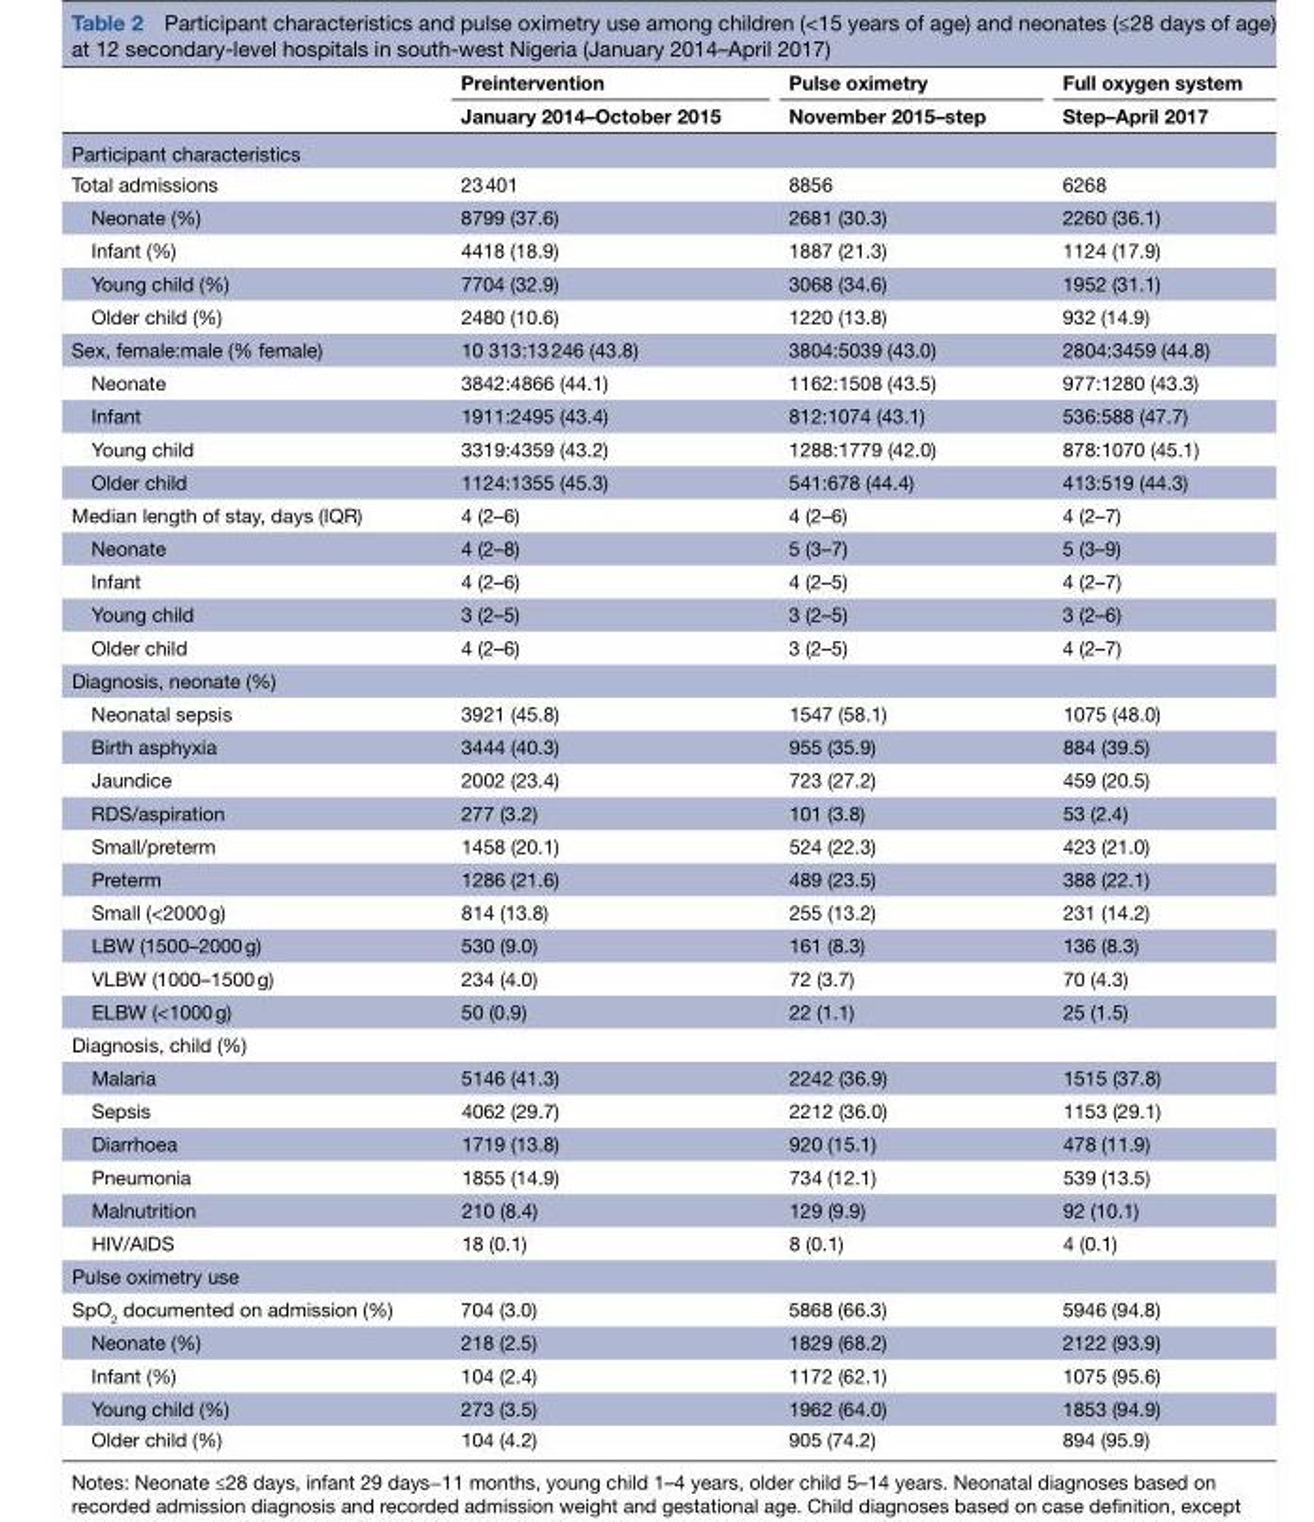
<table><thead><tr><td rowspan="2"></td><td rowspan="2">Preintervention January 2014–October 2015</td><td rowspan="2">Pulse oximetry November 2015–step</td><td rowspan="2">Full oxygen system Step–April 2017</td></tr><tr></tr></thead><tbody><tr><td colspan="4">Participant characteristics</td></tr><tr><td>Total admissions</td><td>23 401</td><td>8856</td><td>6268</td></tr><tr><td>Neonate (%)</td><td>8799 (37.6)</td><td>2681 (30.3)</td><td>2260 (36.1)</td></tr><tr><td>Infant (%)</td><td>4418 (18.9)</td><td>1887 (21.3)</td><td>1124 (17.9)</td></tr><tr><td>Young child (%)</td><td>7704 (32.9)</td><td>3068 (34.6)</td><td>1952 (31.1)</td></tr><tr><td>Older child (%)</td><td>2480 (10.6)</td><td>1220 (13.8)</td><td>932 (14.9)</td></tr><tr><td>Sex, female:male (% female)</td><td>10 313:13 246 (43.8)</td><td>3804:5039 (43.0)</td><td>2804:3459 (44.8)</td></tr><tr><td>Neonate</td><td>3842:4866 (44.1)</td><td>1162:1508 (43.5)</td><td>977:1280 (43.3)</td></tr><tr><td>Infant</td><td>1911:2495 (43.4)</td><td>812:1074 (43.1)</td><td>536:588 (47.7)</td></tr><tr><td>Young child</td><td>3319:4359 (43.2)</td><td>1288:1779 (42.0)</td><td>878:1070 (45.1)</td></tr><tr><td>Older child</td><td>1124:1355 (45.3)</td><td>541:678 (44.4)</td><td>413:519 (44.3)</td></tr><tr><td>Median length of stay, days (IQR)</td><td>4 (2–6)</td><td>4 (2–6)</td><td>4 (2–7)</td></tr><tr><td>Neonate</td><td>4 (2–8)</td><td>5 (3–7)</td><td>5 (3–9)</td></tr><tr><td>Infant</td><td>4 (2–6)</td><td>4 (2–5)</td><td>4 (2–7)</td></tr><tr><td>Young child</td><td>3 (2–5)</td><td>3 (2–5)</td><td>3 (2–6)</td></tr><tr><td>Older child</td><td>4 (2–6)</td><td>3 (2–5)</td><td>4 (2–7)</td></tr><tr><td colspan="4">Diagnosis, neonate (%)</td></tr><tr><td>Neonatal sepsis</td><td>3921 (45.8)</td><td>1547 (58.1)</td><td>1075 (48.0)</td></tr><tr><td>Birth asphyxia</td><td>3444 (40.3)</td><td>955 (35.9)</td><td>884 (39.5)</td></tr><tr><td>Jaundice</td><td>2002 (23.4)</td><td>723 (27.2)</td><td>459 (20.5)</td></tr><tr><td>RDS/aspiration</td><td>277 (3.2)</td><td>101 (3.8)</td><td>53 (2.4)</td></tr><tr><td>Small/preterm</td><td>1458 (20.1)</td><td>524 (22.3)</td><td>423 (21.0)</td></tr><tr><td>Preterm</td><td>1286 (21.6)</td><td>489 (23.5)</td><td>388 (22.1)</td></tr><tr><td>Small (&lt;2000 g)</td><td>814 (13.8)</td><td>255 (13.2)</td><td>231 (14.2)</td></tr><tr><td>LBW (1500–2000 g)</td><td>530 (9.0)</td><td>161 (8.3)</td><td>136 (8.3)</td></tr><tr><td>VLBW (1000–1500 g)</td><td>234 (4.0)</td><td>72 (3.7)</td><td>70 (4.3)</td></tr><tr><td>ELBW (&lt;1000 g)</td><td>50 (0.9)</td><td>22 (1.1)</td><td>25 (1.5)</td></tr><tr><td colspan="4">Diagnosis, child (%)</td></tr><tr><td>Malaria</td><td>5146 (41.3)</td><td>2242 (36.9)</td><td>1515 (37.8)</td></tr><tr><td>Sepsis</td><td>4062 (29.7)</td><td>2212 (36.0)</td><td>1153 (29.1)</td></tr><tr><td>Diarrhoea</td><td>1719 (13.8)</td><td>920 (15.1)</td><td>478 (11.9)</td></tr><tr><td>Pneumonia</td><td>1855 (14.9)</td><td>734 (12.1)</td><td>539 (13.5)</td></tr><tr><td>Malnutrition</td><td>210 (8.4)</td><td>129 (9.9)</td><td>92 (10.1)</td></tr><tr><td>HIV/AIDS</td><td>18 (0.1)</td><td>8 (0.1)</td><td>4 (0.1)</td></tr><tr><td colspan="4">Pulse oximetry use</td></tr><tr><td>SpO<sub>2</sub> documented on admission (%)</td><td>704 (3.0)</td><td>5868 (66.3)</td><td>5946 (94.8)</td></tr><tr><td>Neonate (%)</td><td>218 (2.5)</td><td>1829 (68.2)</td><td>2122 (93.9)</td></tr><tr><td>Infant (%)</td><td>104 (2.4)</td><td>1172 (62.1)</td><td>1075 (95.6)</td></tr><tr><td>Young child (%)</td><td>273 (3.5)</td><td>1962 (64.0)</td><td>1853 (94.9)</td></tr><tr><td>Older child (%)</td><td>104 (4.2)</td><td>905 (74.2)</td><td>894 (95.9)</td></tr></tbody></table>